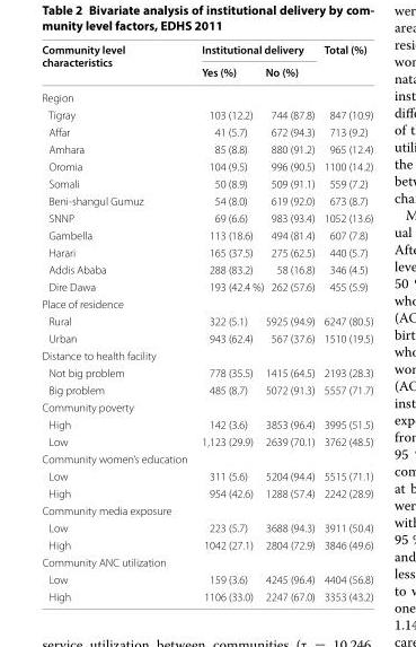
<table><thead><tr><td rowspan="2">Community level characteristics</td><td colspan="2">Institutional delivery</td><td rowspan="2">Total (%)</td></tr><tr><td>Yes (%)</td><td>No (%)</td></tr></thead><tbody><tr><td colspan="4">Region</td></tr><tr><td>Tigray</td><td>103 (12.2)</td><td>744 (87.8)</td><td>847 (10.9)</td></tr><tr><td>Affar</td><td>41 (5.7)</td><td>672 (94.3)</td><td>713 (9.2)</td></tr><tr><td>Amhara</td><td>85 (8.8)</td><td>880 (91.2)</td><td>965 (12.4)</td></tr><tr><td>Oromia</td><td>104 (9.5)</td><td>996 (90.5)</td><td>1100 (14.2)</td></tr><tr><td>Somali</td><td>50 (8.9)</td><td>509 (91.1)</td><td>559 (7.2)</td></tr><tr><td>Beni-shangul Gumuz</td><td>54 (8.0)</td><td>619 (92.0)</td><td>673 (8.7)</td></tr><tr><td>SNNP</td><td>69 (6.6)</td><td>983 (93.4)</td><td>1052 (13.6)</td></tr><tr><td>Gambella</td><td>113 (18.6)</td><td>494 (81.4)</td><td>607 (7.8)</td></tr><tr><td>Harari</td><td>165 (37.5)</td><td>275 (62.5)</td><td>440 (5.7)</td></tr><tr><td>Addis Ababa</td><td>288 (83.2)</td><td>58 (16.8)</td><td>346 (4.5)</td></tr><tr><td>Dire Dawa</td><td>193 (42.4 %)</td><td>262 (57.6)</td><td>455 (5.9)</td></tr><tr><td colspan="4">Place of residence</td></tr><tr><td>Rural</td><td>322 (5.1)</td><td>5925 (94.9)</td><td>6247 (80.5)</td></tr><tr><td>Urban</td><td>943 (62.4)</td><td>567 (37.6)</td><td>1510 (19.5)</td></tr><tr><td colspan="4">Distance to health facility</td></tr><tr><td>Not big problem</td><td>778 (35.5)</td><td>1415 (64.5)</td><td>2193 (28.3)</td></tr><tr><td>Big problem</td><td>485 (8.7)</td><td>5072 (91.3)</td><td>5557 (71.7)</td></tr><tr><td colspan="4">Community poverty</td></tr><tr><td>High</td><td>142 (3.6)</td><td>3853 (96.4)</td><td>3995 (51.5)</td></tr><tr><td>Low</td><td>1,123 (29.9)</td><td>2639 (70.1)</td><td>3762 (48.5)</td></tr><tr><td colspan="4">Community women’s education</td></tr><tr><td>Low</td><td>311 (5.6)</td><td>5204 (94.4)</td><td>5515 (71.1)</td></tr><tr><td>High</td><td>954 (42.6)</td><td>1288 (57.4)</td><td>2242 (28.9)</td></tr><tr><td colspan="4">Community media exposure</td></tr><tr><td>Low</td><td>223 (5.7)</td><td>3688 (94.3)</td><td>3911 (50.4)</td></tr><tr><td>High</td><td>1042 (27.1)</td><td>2804 (72.9)</td><td>3846 (49.6)</td></tr><tr><td colspan="4">Community ANC utilization</td></tr><tr><td>Low</td><td>159 (3.6)</td><td>4245 (96.4)</td><td>4404 (56.8)</td></tr><tr><td>High</td><td>1106 (33.0)</td><td>2247 (67.0)</td><td>3353 (43.2)</td></tr></tbody></table>